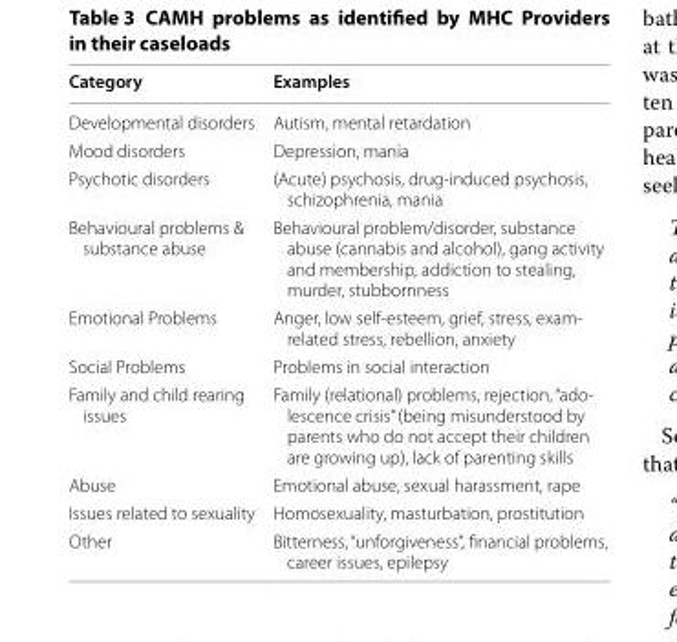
<table><thead><tr><td>Category</td><td>Examples</td></tr></thead><tbody><tr><td>Developmental disorders</td><td>Autism, mental retardation</td></tr><tr><td>Mood disorders</td><td>Depression, mania</td></tr><tr><td>Psychotic disorders</td><td>(Acute) psychosis, drug-induced psychosis, schizophrenia, mania</td></tr><tr><td>Behavioural problems &amp; substance abuse</td><td>Behavioural problem/disorder, substance abuse (cannabis and alcohol), gang activity and membership, addiction to stealing, murder, stubbornness</td></tr><tr><td>Emotional Problems</td><td>Anger, low self-esteem, grief, stress, exam- related stress, rebellion, anxiety</td></tr><tr><td>Social Problems</td><td>Problems in social interaction</td></tr><tr><td>Family and child rearing issues</td><td>Family (relational) problems, rejection, “ado- lescence crisis” (being misunderstood by parents who do not accept their children are growing up), lack of parenting skills</td></tr><tr><td>Abuse</td><td>Emotional abuse, sexual harassment, rape</td></tr><tr><td>Issues related to sexuality</td><td>Homosexuality, masturbation, prostitution</td></tr><tr><td>Other</td><td>Bitterness, “unforgiveness”, financial problems, career issues, epilepsy</td></tr></tbody></table>